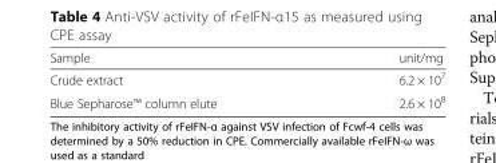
<table><thead><tr><td>Sample</td><td>unit/mg</td></tr></thead><tbody><tr><td>Crude extract</td><td>6.2 × 10<sup>7</sup></td></tr><tr><td>Blue Sepharose™ column elute</td><td>2.6 × 10<sup>8</sup></td></tr></tbody></table>